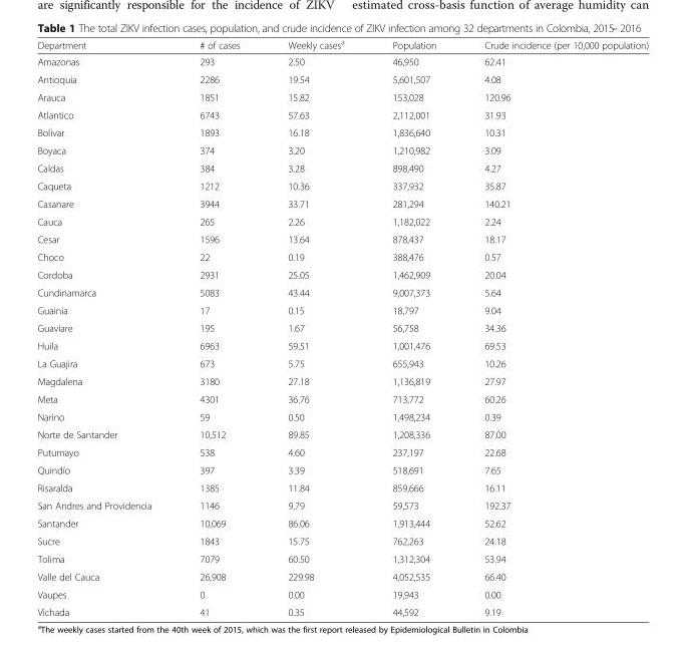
<table><thead><tr><td>Department</td><td># of cases</td><td>Weekly cases<sup>a</sup></td><td>Population</td><td>Crude incidence (per 10,000 population)</td></tr></thead><tbody><tr><td>Amazonas</td><td>293</td><td>2.50</td><td>46,950</td><td>62.41</td></tr><tr><td>Antioquia</td><td>2286</td><td>19.54</td><td>5,601,507</td><td>4.08</td></tr><tr><td>Arauca</td><td>1851</td><td>15.82</td><td>153,028</td><td>120.96</td></tr><tr><td>Atlantico</td><td>6743</td><td>57.63</td><td>2,112,001</td><td>31.93</td></tr><tr><td>Bolivar</td><td>1893</td><td>16.18</td><td>1,836,640</td><td>10.31</td></tr><tr><td>Boyaca</td><td>374</td><td>3.20</td><td>1,210,982</td><td>3.09</td></tr><tr><td>Caldas</td><td>384</td><td>3.28</td><td>898,490</td><td>4.27</td></tr><tr><td>Caqueta</td><td>1212</td><td>10.36</td><td>337,932</td><td>35.87</td></tr><tr><td>Casanare</td><td>3944</td><td>33.71</td><td>281,294</td><td>140.21</td></tr><tr><td>Cauca</td><td>265</td><td>2.26</td><td>1,182,022</td><td>2.24</td></tr><tr><td>Cesar</td><td>1596</td><td>13.64</td><td>878,437</td><td>18.17</td></tr><tr><td>Choco</td><td>22</td><td>0.19</td><td>388,476</td><td>0.57</td></tr><tr><td>Cordoba</td><td>2931</td><td>25.05</td><td>1,462,909</td><td>20.04</td></tr><tr><td>Cundinamarca</td><td>5083</td><td>43.44</td><td>9,007,373</td><td>5.64</td></tr><tr><td>Guainia</td><td>17</td><td>0.15</td><td>18,797</td><td>9.04</td></tr><tr><td>Guaviare</td><td>195</td><td>1.67</td><td>56,758</td><td>34.36</td></tr><tr><td>Huila</td><td>6963</td><td>59.51</td><td>1,001,476</td><td>69.53</td></tr><tr><td>La Guajira</td><td>673</td><td>5.75</td><td>655,943</td><td>10.26</td></tr><tr><td>Magdalena</td><td>3180</td><td>27.18</td><td>1,136,819</td><td>27.97</td></tr><tr><td>Meta</td><td>4301</td><td>36.76</td><td>713,772</td><td>60.26</td></tr><tr><td>Narino</td><td>59</td><td>0.50</td><td>1,498,234</td><td>0.39</td></tr><tr><td>Norte de Santander</td><td>10,512</td><td>89.85</td><td>1,208,336</td><td>87.00</td></tr><tr><td>Putumayo</td><td>538</td><td>4.60</td><td>237,197</td><td>22.68</td></tr><tr><td>Quindío</td><td>397</td><td>3.39</td><td>518,691</td><td>7.65</td></tr><tr><td>Risaralda</td><td>1385</td><td>11.84</td><td>859,666</td><td>16.11</td></tr><tr><td>San Andres and Providencia</td><td>1146</td><td>9.79</td><td>59,573</td><td>192.37</td></tr><tr><td>Santander</td><td>10,069</td><td>86.06</td><td>1,913,444</td><td>52.62</td></tr><tr><td>Sucre</td><td>1843</td><td>15.75</td><td>762,263</td><td>24.18</td></tr><tr><td>Tolima</td><td>7079</td><td>60.50</td><td>1,312,304</td><td>53.94</td></tr><tr><td>Valle del Cauca</td><td>26,908</td><td>229.98</td><td>4,052,535</td><td>66.40</td></tr><tr><td>Vaupes</td><td>0</td><td>0.00</td><td>19,943</td><td>0.00</td></tr><tr><td>Vichada</td><td>41</td><td>0.35</td><td>44,592</td><td>9.19</td></tr></tbody></table>